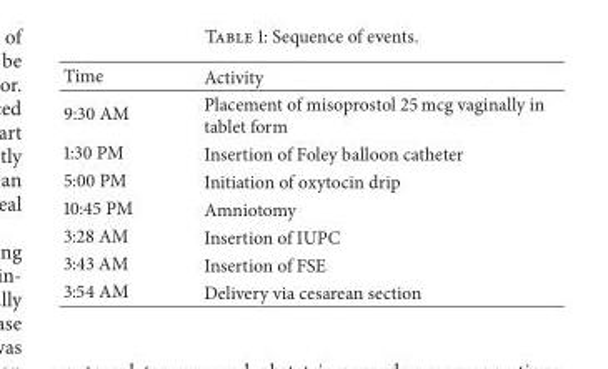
<table><thead><tr><td>Time</td><td>Activity</td></tr></thead><tbody><tr><td>9:30 AM</td><td>Placement of misoprostol 25 mcg vaginally in tablet form</td></tr><tr><td>1:30 PM</td><td>Insertion of Foley balloon catheter</td></tr><tr><td>5:00 PM</td><td>Initiation of oxytocin drip</td></tr><tr><td>10:45 PM</td><td>Amniotomy</td></tr><tr><td>3:28 AM</td><td>Insertion of IUPC</td></tr><tr><td>3:43 AM</td><td>Insertion of FSE</td></tr><tr><td>3:54 AM</td><td>Delivery via cesarean section</td></tr></tbody></table>